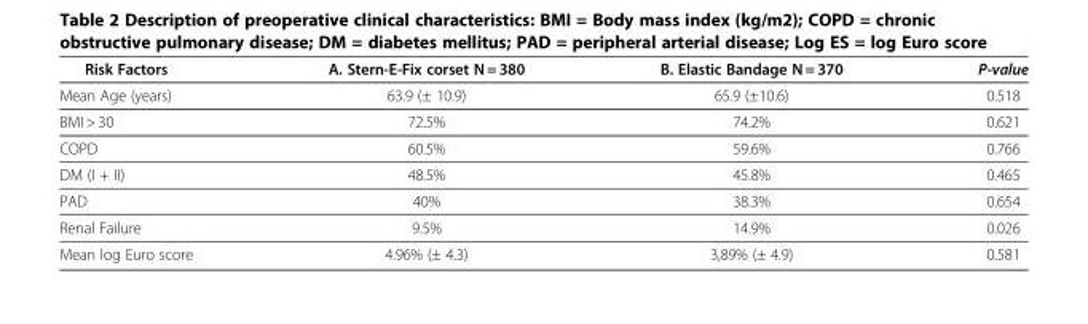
<table><thead><tr><td>Risk Factors</td><td>A. Stern-E-Fix corset N = 380</td><td>B. Elastic Bandage N = 370</td><td>P-value</td></tr></thead><tbody><tr><td>Mean Age (years)</td><td>63.9 (± 10.9)</td><td>65.9 (±10.6)</td><td>0.518</td></tr><tr><td>BMI &gt; 30</td><td>72.5%</td><td>74.2%</td><td>0.621</td></tr><tr><td>COPD</td><td>60.5%</td><td>59.6%</td><td>0.766</td></tr><tr><td>DM (I + II)</td><td>48.5%</td><td>45.8%</td><td>0.465</td></tr><tr><td>PAD</td><td>40%</td><td>38.3%</td><td>0.654</td></tr><tr><td>Renal Failure</td><td>9.5%</td><td>14.9%</td><td>0.026</td></tr><tr><td>Mean log Euro score</td><td>4.96% (± 4.3)</td><td>3,89% (± 4.9)</td><td>0.581</td></tr></tbody></table>